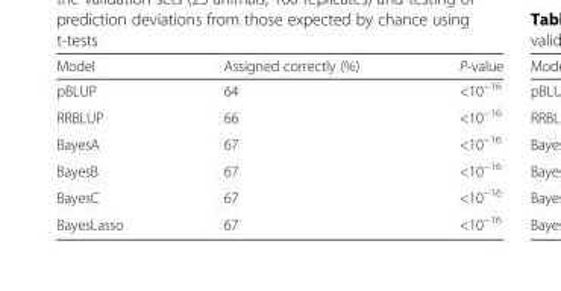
<table><thead><tr><td>Model</td><td>Assigned correctly (%)</td><td>P-value</td></tr></thead><tbody><tr><td>pBLUP</td><td>64</td><td>&lt;10<sup>−16</sup></td></tr><tr><td>RRBLUP</td><td>66</td><td>&lt;10<sup>−16</sup></td></tr><tr><td>BayesA</td><td>67</td><td>&lt;10<sup>−16</sup></td></tr><tr><td>BayesB</td><td>67</td><td>&lt;10<sup>−16</sup></td></tr><tr><td>BayesC</td><td>67</td><td>&lt;10<sup>−16</sup></td></tr><tr><td>BayesLasso</td><td>67</td><td>&lt;10<sup>−16</sup></td></tr></tbody></table>